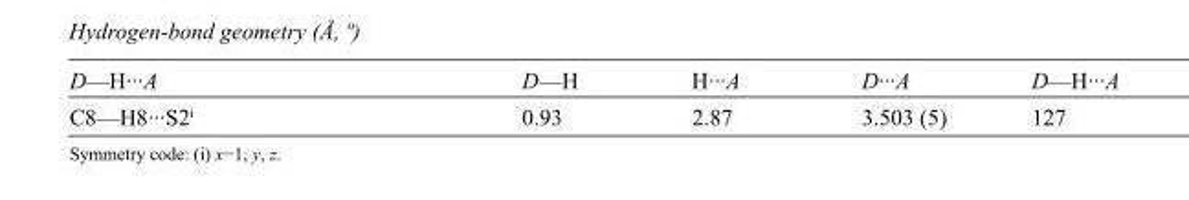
<table><tbody><tr><td>D—H···A</td><td>D—H</td><td>H···A</td><td>D···A</td><td>D—H···A</td></tr><tr><td>C8—H8···S2<sup>i</sup></td><td>0.93</td><td>2.87</td><td>3.503 (5)</td><td>127</td></tr></tbody></table>